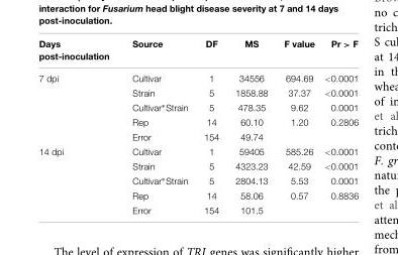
<table><thead><tr><td>Days post-inoculation</td><td>Source</td><td>DF</td><td>MS</td><td>F value</td><td>Pr &gt; F</td></tr></thead><tbody><tr><td rowspan="5">7 dpi</td><td>Cultivar</td><td>1</td><td>34556</td><td>694.69</td><td>&lt;0.0001</td></tr><tr><td>Strain</td><td>5</td><td>1858.88</td><td>37.37</td><td>&lt;0.0001</td></tr><tr><td>Cultivar∗Strain</td><td>5</td><td>478.35</td><td>9.62</td><td>0.0001</td></tr><tr><td>Rep</td><td>14</td><td>60.10</td><td>1.20</td><td>0.2806</td></tr><tr><td>Error</td><td>154</td><td>49.74</td><td></td><td></td></tr><tr><td rowspan="5">14 dpi</td><td>Cultivar</td><td>1</td><td>59405</td><td>585.26</td><td>&lt;0.0001</td></tr><tr><td>Strain</td><td>5</td><td>4323.23</td><td>42.59</td><td>&lt;0.0001</td></tr><tr><td>Cultivar∗Strain</td><td>5</td><td>2804.13</td><td>5.53</td><td>0.0001</td></tr><tr><td>Rep</td><td>14</td><td>58.06</td><td>0.57</td><td>0.8836</td></tr><tr><td>Error</td><td>154</td><td>101.5</td><td></td><td></td></tr></tbody></table>